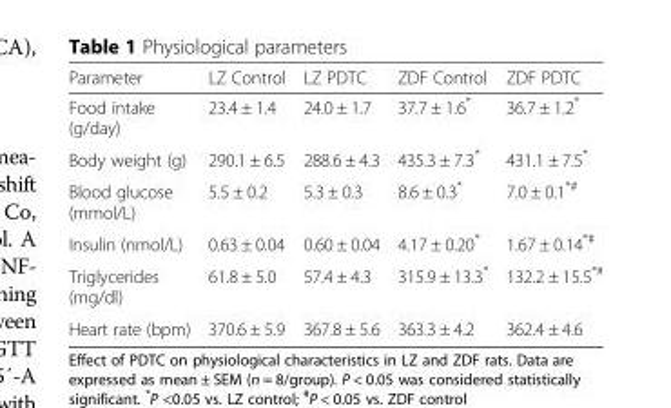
<table><thead><tr><td>Parameter</td><td>LZ Control</td><td>LZ PDTC</td><td>ZDF Control</td><td>ZDF PDTC</td></tr></thead><tbody><tr><td>Food intake (g/day)</td><td>23.4 ± 1.4</td><td>24.0 ± 1.7</td><td>37.7 ± 1.6*</td><td>36.7 ± 1.2*</td></tr><tr><td>Body weight (g)</td><td>290.1 ± 6.5</td><td>288.6 ± 4.3</td><td>435.3 ± 7.3*</td><td>431.1 ± 7.5*</td></tr><tr><td>Blood glucose (mmol/L)</td><td>5.5 ± 0.2</td><td>5.3 ± 0.3</td><td>8.6 ± 0.3*</td><td>7.0 ± 0.1<sup>*#</sup></td></tr><tr><td>Insulin (nmol/L)</td><td>0.63 ± 0.04</td><td>0.60 ± 0.04</td><td>4.17 ± 0.20*</td><td>1.67 ± 0.14<sup>*#</sup></td></tr><tr><td>Triglycerides (mg/dl)</td><td>61.8 ± 5.0</td><td>57.4 ± 4.3</td><td>315.9 ± 13.3*</td><td>132.2 ± 15.5<sup>*#</sup></td></tr><tr><td>Heart rate (bpm)</td><td>370.6 ± 5.9</td><td>367.8 ± 5.6</td><td>363.3 ± 4.2</td><td>362.4 ± 4.6</td></tr></tbody></table>